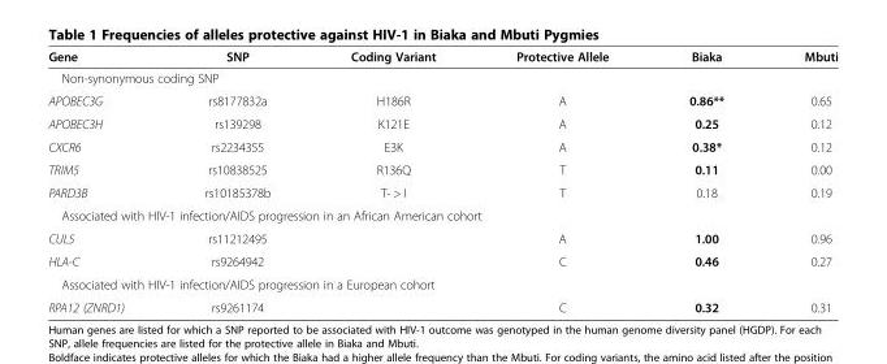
<table><thead><tr><td>Gene</td><td>SNP</td><td>Coding Variant</td><td>Protective Allele</td><td>Biaka</td><td>Mbuti</td></tr></thead><tbody><tr><td colspan="6">Non-synonymous coding SNP</td></tr><tr><td>APOBEC3G</td><td>rs8177832a</td><td>H186R</td><td>A</td><td>0.86**</td><td>0.65</td></tr><tr><td>APOBEC3H</td><td>rs139298</td><td>K121E</td><td>A</td><td>0.25</td><td>0.12</td></tr><tr><td>CXCR6</td><td>rs2234355</td><td>E3K</td><td>A</td><td>0.38*</td><td>0.12</td></tr><tr><td>TRIM5</td><td>rs10838525</td><td>R136Q</td><td>T</td><td>0.11</td><td>0.00</td></tr><tr><td>PARD3B</td><td>rs10185378b</td><td>T- &gt; I</td><td>T</td><td>0.18</td><td>0.19</td></tr><tr><td colspan="6">Associated with HIV-1 infection/AIDS progression in an African American cohort</td></tr><tr><td>CUL5</td><td>rs11212495</td><td></td><td>A</td><td>1.00</td><td>0.96</td></tr><tr><td>HLA-C</td><td>rs9264942</td><td></td><td>C</td><td>0.46</td><td>0.27</td></tr><tr><td colspan="6">Associated with HIV-1 infection/AIDS progression in a European cohort</td></tr><tr><td>RPA12 (ZNRD1)</td><td>rs9261174</td><td></td><td>C</td><td>0.32</td><td>0.31</td></tr></tbody></table>